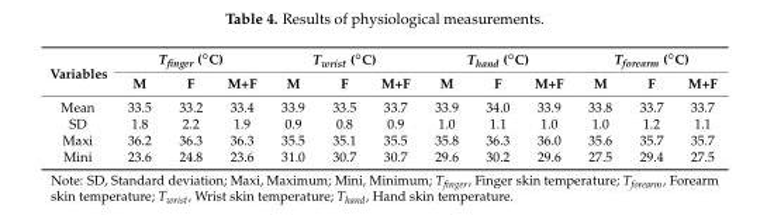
<table><thead><tr><td rowspan="2">Variables</td><td colspan="3">Tfinger (◦C)</td><td colspan="3">Twrist (◦C)</td><td colspan="3">Thand (◦C)</td><td colspan="3">Tforearm (◦C)</td></tr><tr><td>M</td><td>F</td><td>M+F</td><td>M</td><td>F</td><td>M+F</td><td>M</td><td>F</td><td>M+F</td><td>M</td><td>F</td><td>M+F</td></tr></thead><tbody><tr><td>Mean</td><td>33.5</td><td>33.2</td><td>33.4</td><td>33.9</td><td>33.5</td><td>33.7</td><td>33.9</td><td>34.0</td><td>33.9</td><td>33.8</td><td>33.7</td><td>33.7</td></tr><tr><td>SD</td><td>1.8</td><td>2.2</td><td>1.9</td><td>0.9</td><td>0.8</td><td>0.9</td><td>1.0</td><td>1.1</td><td>1.0</td><td>1.0</td><td>1.2</td><td>1.1</td></tr><tr><td>Maxi</td><td>36.2</td><td>36.3</td><td>36.3</td><td>35.5</td><td>35.1</td><td>35.5</td><td>35.8</td><td>36.3</td><td>36.0</td><td>35.6</td><td>35.7</td><td>35.7</td></tr><tr><td>Mini</td><td>23.6</td><td>24.8</td><td>23.6</td><td>31.0</td><td>30.7</td><td>30.7</td><td>29.6</td><td>30.2</td><td>29.6</td><td>27.5</td><td>29.4</td><td>27.5</td></tr></tbody></table>